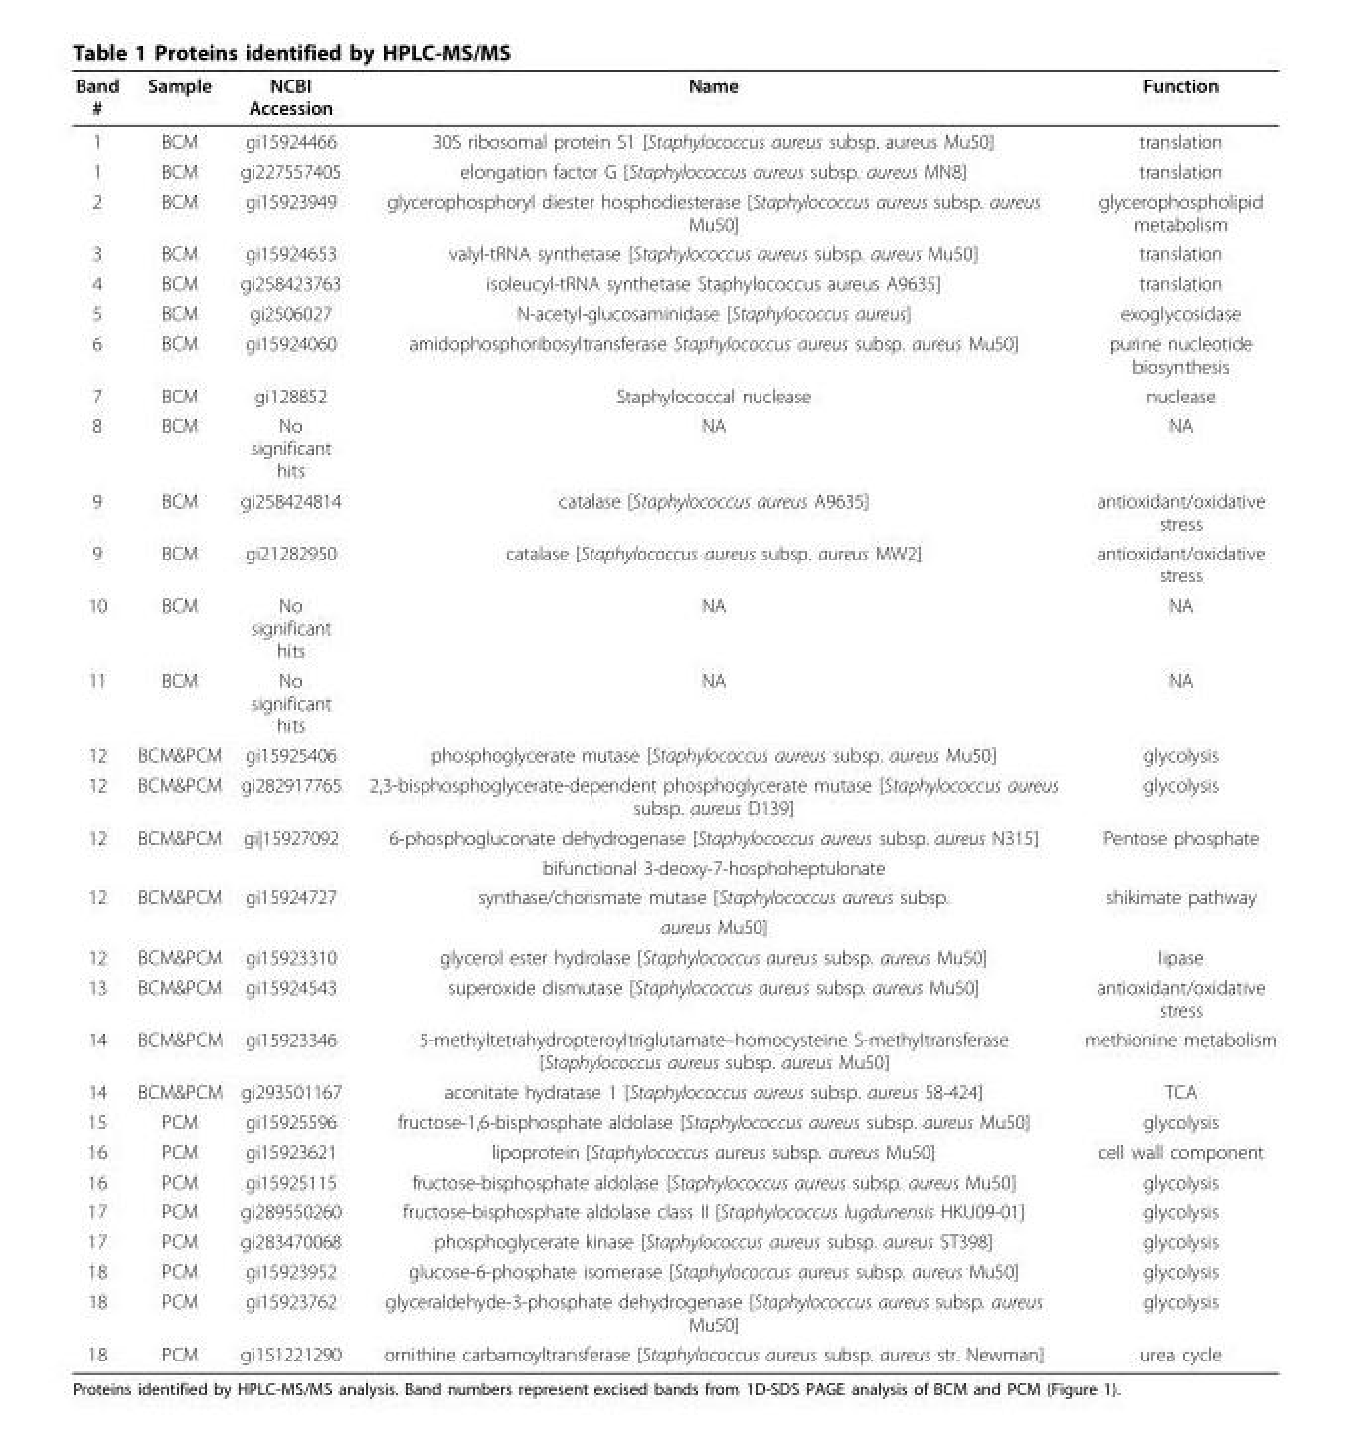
<table><thead><tr><td>Band #</td><td>Sample</td><td>NCBI Accession</td><td>Name</td><td>Function</td></tr></thead><tbody><tr><td>1</td><td>BCM</td><td>gi15924466</td><td>30S ribosomal protein S1 [Staphylococcus aureus subsp. aureus Mu50]</td><td>translation</td></tr><tr><td>1</td><td>BCM</td><td>gi227557405</td><td>elongation factor G [Staphylococcus aureus subsp. aureus MN8]</td><td>translation</td></tr><tr><td>2</td><td>BCM</td><td>gi15923949</td><td>glycerophosphoryl diester hosphodiesterase [Staphylococcus aureus subsp. aureus Mu50]</td><td>glycerophospholipid metabolism</td></tr><tr><td>3</td><td>BCM</td><td>gi15924653</td><td>valyl-tRNA synthetase [Staphylococcus aureus subsp. aureus Mu50]</td><td>translation</td></tr><tr><td>4</td><td>BCM</td><td>gi258423763</td><td>isoleucyl-tRNA synthetase Staphylococcus aureus A9635]</td><td>translation</td></tr><tr><td>5</td><td>BCM</td><td>gi2506027</td><td>N-acetyl-glucosaminidase [Staphylococcus aureus]</td><td>exoglycosidase</td></tr><tr><td>6</td><td>BCM</td><td>gi15924060</td><td>amidophosphoribosyltransferase Staphylococcus aureus subsp. aureus Mu50]</td><td>purine nucleotide biosynthesis</td></tr><tr><td>7</td><td>BCM</td><td>gi128852</td><td>Staphylococcal nuclease</td><td>nuclease</td></tr><tr><td>8</td><td>BCM</td><td>No significant hits</td><td>NA</td><td>NA</td></tr><tr><td>9</td><td>BCM</td><td>gi258424814</td><td>catalase [Staphylococcus aureus A9635]</td><td>antioxidant/oxidative stress</td></tr><tr><td>9</td><td>BCM</td><td>gi21282950</td><td>catalase [Staphylococcus aureus subsp. aureus MW2]</td><td>antioxidant/oxidative stress</td></tr><tr><td>10</td><td>BCM</td><td>No significant hits</td><td>NA</td><td>NA</td></tr><tr><td>11</td><td>BCM</td><td>No significant hits</td><td>NA</td><td>NA</td></tr><tr><td>12</td><td>BCM&amp;PCM</td><td>gi15925406</td><td>phosphoglycerate mutase [Staphylococcus aureus subsp. aureus Mu50]</td><td>glycolysis</td></tr><tr><td>12</td><td>BCM&amp;PCM</td><td>gi282917765</td><td>2,3-bisphosphoglycerate-dependent phosphoglycerate mutase [Staphylococcus aureus subsp. aureus D139]</td><td>glycolysis</td></tr><tr><td rowspan="2">12</td><td>BCM&amp;PCM</td><td>gi|15927092</td><td>6-phosphogluconate dehydrogenase [Staphylococcus aureus subsp. aureus N315]</td><td>Pentose phosphate</td></tr><tr><td></td><td></td><td>bifunctional 3-deoxy-7-hosphoheptulonate</td><td></td></tr><tr><td rowspan="2">12</td><td>BCM&amp;PCM</td><td>gi15924727</td><td>synthase/chorismate mutase [Staphylococcus aureus subsp.</td><td>shikimate pathway</td></tr><tr><td></td><td></td><td>aureus Mu50]</td><td></td></tr><tr><td>12</td><td>BCM&amp;PCM</td><td>gi15923310</td><td>glycerol ester hydrolase [Staphylococcus aureus subsp. aureus Mu50]</td><td>lipase</td></tr><tr><td>13</td><td>BCM&amp;PCM</td><td>gi15924543</td><td>superoxide dismutase [Staphylococcus aureus subsp. aureus Mu50]</td><td>antioxidant/oxidative stress</td></tr><tr><td>14</td><td>BCM&amp;PCM</td><td>gi15923346</td><td>5-methyltetrahydropteroyltriglutamate–homocysteine S-methyltransferase [Staphylococcus aureus subsp. aureus Mu50]</td><td>methionine metabolism</td></tr><tr><td>14</td><td>BCM&amp;PCM</td><td>gi293501167</td><td>aconitate hydratase 1 [Staphylococcus aureus subsp. aureus 58-424]</td><td>TCA</td></tr><tr><td>15</td><td>PCM</td><td>gi15925596</td><td>fructose-1,6-bisphosphate aldolase [Staphylococcus aureus subsp. aureus Mu50]</td><td>glycolysis</td></tr><tr><td>16</td><td>PCM</td><td>gi15923621</td><td>lipoprotein [Staphylococcus aureus subsp. aureus Mu50]</td><td>cell wall component</td></tr><tr><td>16</td><td>PCM</td><td>gi15925115</td><td>fructose-bisphosphate aldolase [Staphylococcus aureus subsp. aureus Mu50]</td><td>glycolysis</td></tr><tr><td>17</td><td>PCM</td><td>gi289550260</td><td>fructose-bisphosphate aldolase class II [Staphylococcus lugdunensis HKU09-01]</td><td>glycolysis</td></tr><tr><td>17</td><td>PCM</td><td>gi283470068</td><td>phosphoglycerate kinase [Staphylococcus aureus subsp. aureus ST398]</td><td>glycolysis</td></tr><tr><td>18</td><td>PCM</td><td>gi15923952</td><td>glucose-6-phosphate isomerase [Staphylococcus aureus subsp. aureus Mu50]</td><td>glycolysis</td></tr><tr><td>18</td><td>PCM</td><td>gi15923762</td><td>glyceraldehyde-3-phosphate dehydrogenase [Staphylococcus aureus subsp. aureus Mu50]</td><td>glycolysis</td></tr><tr><td>18</td><td>PCM</td><td>gi151221290</td><td>ornithine carbamoyltransferase [Staphylococcus aureus subsp. aureus str. Newman]</td><td>urea cycle</td></tr></tbody></table>